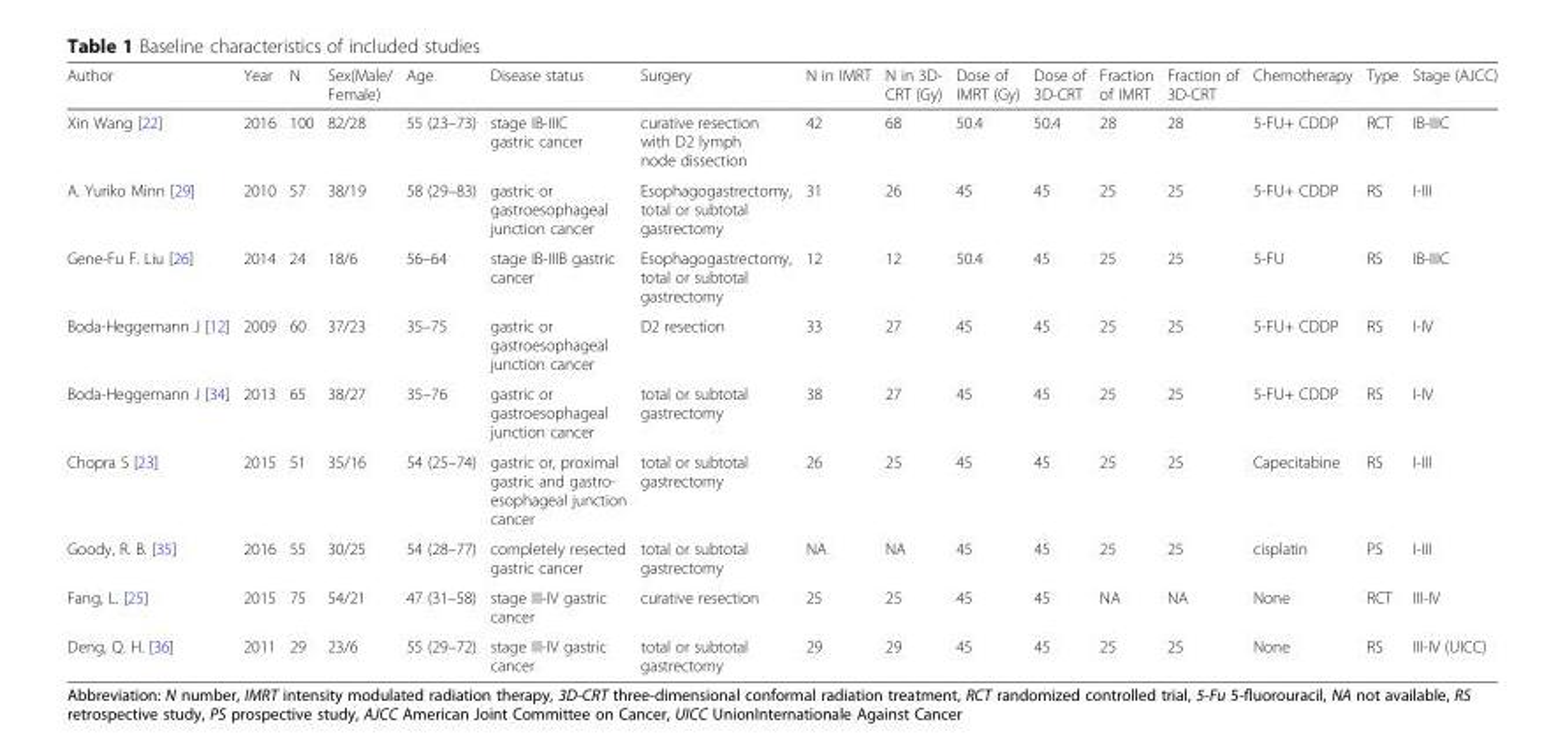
<table><thead><tr><td>Author</td><td>Year</td><td>N</td><td>Sex(Male/ Female)</td><td>Age</td><td>Disease status</td><td>Surgery</td><td>N in IMRT</td><td>N in 3D- CRT (Gy)</td><td>Dose of IMRT (Gy)</td><td>Dose of 3D-CRT</td><td>Fraction of IMRT</td><td>Fraction of 3D-CRT</td><td>Chemotherapy</td><td>Type</td><td>Stage (AJCC)</td></tr></thead><tbody><tr><td>Xin Wang [22]</td><td>2016</td><td>100</td><td>82/28</td><td>55 (23–73)</td><td>stage IB-IIIC gastric cancer</td><td>curative resection with D2 lymph node dissection</td><td>42</td><td>68</td><td>50.4</td><td>50.4</td><td>28</td><td>28</td><td>5-FU+ CDDP</td><td>RCT</td><td>IB-IIIC</td></tr><tr><td>A. Yuriko Minn [29]</td><td>2010</td><td>57</td><td>38/19</td><td>58 (29–83)</td><td>gastric or gastroesophageal junction cancer</td><td>Esophagogastrectomy, total or subtotal gastrectomy</td><td>31</td><td>26</td><td>45</td><td>45</td><td>25</td><td>25</td><td>5-FU+ CDDP</td><td>RS</td><td>I-III</td></tr><tr><td>Gene-Fu F. Liu [26]</td><td>2014</td><td>24</td><td>18/6</td><td>56–64</td><td>stage IB-IIIB gastric cancer</td><td>Esophagogastrectomy, total or subtotal gastrectomy</td><td>12</td><td>12</td><td>50.4</td><td>45</td><td>25</td><td>25</td><td>5-FU</td><td>RS</td><td>IB-IIIC</td></tr><tr><td>Boda-Heggemann J [12]</td><td>2009</td><td>60</td><td>37/23</td><td>35–75</td><td>gastric or gastroesophageal junction cancer</td><td>D2 resection</td><td>33</td><td>27</td><td>45</td><td>45</td><td>25</td><td>25</td><td>5-FU+ CDDP</td><td>RS</td><td>I-IV</td></tr><tr><td>Boda-Heggemann J [34]</td><td>2013</td><td>65</td><td>38/27</td><td>35–76</td><td>gastric or gastroesophageal junction cancer</td><td>total or subtotal gastrectomy</td><td>38</td><td>27</td><td>45</td><td>45</td><td>25</td><td>25</td><td>5-FU+ CDDP</td><td>RS</td><td>I-IV</td></tr><tr><td>Chopra S [23]</td><td>2015</td><td>51</td><td>35/16</td><td>54 (25–74)</td><td>gastric or, proximal gastric and gastro- esophageal junction cancer</td><td>total or subtotal gastrectomy</td><td>26</td><td>25</td><td>45</td><td>45</td><td>25</td><td>25</td><td>Capecitabine</td><td>RS</td><td>I-III</td></tr><tr><td>Goody, R. B. [35]</td><td>2016</td><td>55</td><td>30/25</td><td>54 (28–77)</td><td>completely resected gastric cancer</td><td>total or subtotal gastrectomy</td><td>NA</td><td>NA</td><td>45</td><td>45</td><td>25</td><td>25</td><td>cisplatin</td><td>PS</td><td>I-III</td></tr><tr><td>Fang, L. [25]</td><td>2015</td><td>75</td><td>54/21</td><td>47 (31–58)</td><td>stage III-IV gastric cancer</td><td>curative resection</td><td>25</td><td>25</td><td>45</td><td>45</td><td>NA</td><td>NA</td><td>None</td><td>RCT</td><td>III-IV</td></tr><tr><td>Deng, Q. H. [36]</td><td>2011</td><td>29</td><td>23/6</td><td>55 (29–72)</td><td>stage III-IV gastric cancer</td><td>total or subtotal gastrectomy</td><td>29</td><td>29</td><td>45</td><td>45</td><td>25</td><td>25</td><td>None</td><td>RS</td><td>III-IV (UICC)</td></tr></tbody></table>